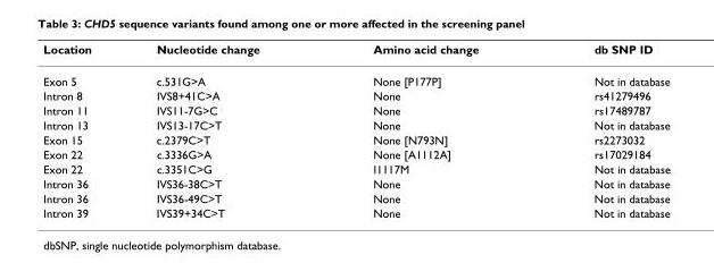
<table><thead><tr><td>Location</td><td>Nucleotide change</td><td>Amino acid change</td><td>db SNP ID</td></tr></thead><tbody><tr><td>Exon 5</td><td>c.531G&gt;A</td><td>None [P177P]</td><td>Not in database</td></tr><tr><td>Intron 8</td><td>IVS8+41C&gt;A</td><td>None</td><td>rs41279496</td></tr><tr><td>Intron 11</td><td>IVS11-7G&gt;C</td><td>None</td><td>rs17489787</td></tr><tr><td>Intron 13</td><td>IVS13-17C&gt;T</td><td>None</td><td>Not in database</td></tr><tr><td>Exon 15</td><td>c.2379C&gt;T</td><td>None [N793N]</td><td>rs2273032</td></tr><tr><td>Exon 22</td><td>c.3336G&gt;A</td><td>None [A1112A]</td><td>rs17029184</td></tr><tr><td>Exon 22</td><td>c.3351C&gt;G</td><td>I1117M</td><td>Not in database</td></tr><tr><td>Intron 36</td><td>IVS36-38C&gt;T</td><td>None</td><td>Not in database</td></tr><tr><td>Intron 36</td><td>IVS36-49C&gt;T</td><td>None</td><td>Not in database</td></tr><tr><td>Intron 39</td><td>IVS39+34C&gt;T</td><td>None</td><td>Not in database</td></tr></tbody></table>